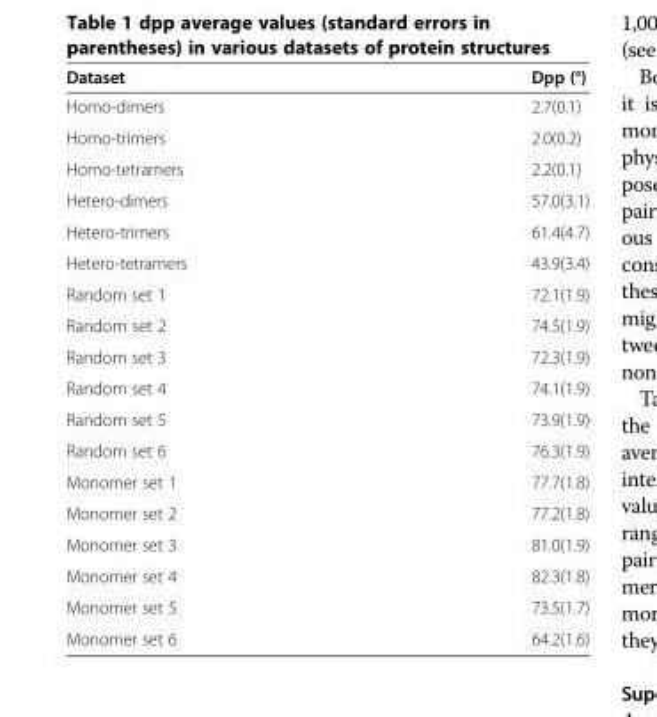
<table><thead><tr><td>Dataset</td><td>Dpp (°)</td></tr></thead><tbody><tr><td>Homo-dimers</td><td>2.7(0.1)</td></tr><tr><td>Homo-trimers</td><td>2.0(0.2)</td></tr><tr><td>Homo-tetramers</td><td>2.2(0.1)</td></tr><tr><td>Hetero-dimers</td><td>57.0(3.1)</td></tr><tr><td>Hetero-trimers</td><td>61.4(4.7)</td></tr><tr><td>Hetero-tetramers</td><td>43.9(3.4)</td></tr><tr><td>Random set 1</td><td>72.1(1.9)</td></tr><tr><td>Random set 2</td><td>74.5(1.9)</td></tr><tr><td>Random set 3</td><td>72.3(1.9)</td></tr><tr><td>Random set 4</td><td>74.1(1.9)</td></tr><tr><td>Random set 5</td><td>73.9(1.9)</td></tr><tr><td>Random set 6</td><td>76.3(1.9)</td></tr><tr><td>Monomer set 1</td><td>77.7(1.8)</td></tr><tr><td>Monomer set 2</td><td>77.2(1.8)</td></tr><tr><td>Monomer set 3</td><td>81.0(1.9)</td></tr><tr><td>Monomer set 4</td><td>82.3(1.8)</td></tr><tr><td>Monomer set 5</td><td>73.5(1.7)</td></tr><tr><td>Monomer set 6</td><td>64.2(1.6)</td></tr></tbody></table>